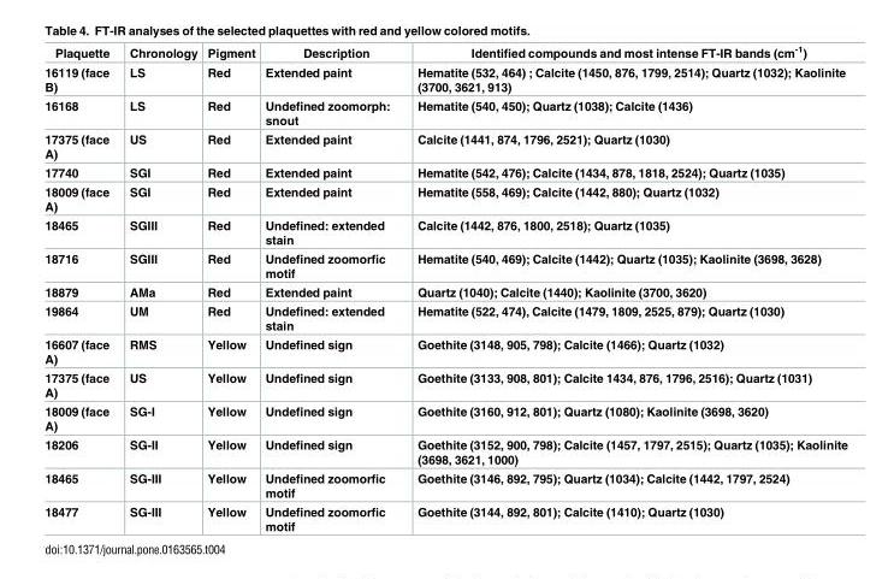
<table><thead><tr><td>Plaquette</td><td>Chronology</td><td>Pigment</td><td>Description</td><td>Identified compounds and most intense FT-IR bands (cm<sup>-1</sup>)</td></tr></thead><tbody><tr><td>16119 (face B)</td><td>LS</td><td>Red</td><td>Extended paint</td><td>Hematite (532, 464) ; Calcite (1450, 876, 1799, 2514); Quartz (1032); Kaolinite (3700, 3621, 913)</td></tr><tr><td>16168</td><td>LS</td><td>Red</td><td>Undefined zoomorph: snout</td><td>Hematite (540, 450); Quartz (1038); Calcite (1436)</td></tr><tr><td>17375 (face A)</td><td>US</td><td>Red</td><td>Extended paint</td><td>Calcite (1441, 874, 1796, 2521); Quartz (1030)</td></tr><tr><td>17740</td><td>SGI</td><td>Red</td><td>Extended paint</td><td>Hematite (542, 476); Calcite (1434, 878, 1818, 2524); Quartz (1035)</td></tr><tr><td>18009 (face A)</td><td>SGI</td><td>Red</td><td>Extended paint</td><td>Hematite (558, 469); Calcite (1442, 880); Quartz (1032)</td></tr><tr><td>18465</td><td>SGIII</td><td>Red</td><td>Undefined: extended stain</td><td>Calcite (1442, 876, 1800, 2518); Quartz (1035)</td></tr><tr><td>18716</td><td>SGIII</td><td>Red</td><td>Undefined zoomorfic motif</td><td>Hematite (540, 469); Calcite (1442); Quartz (1035); Kaolinite (3698, 3628)</td></tr><tr><td>18879</td><td>AMa</td><td>Red</td><td>Extended paint</td><td>Quartz (1040); Calcite (1440); Kaolinite (3700, 3620)</td></tr><tr><td>19864</td><td>UM</td><td>Red</td><td>Undefined: extended stain</td><td>Hematite (522, 474), Calcite (1479, 1809, 2525, 879); Quartz (1030)</td></tr><tr><td>16607 (face A)</td><td>RMS</td><td>Yellow</td><td>Undefined sign</td><td>Goethite (3148, 905, 798); Calcite (1466); Quartz (1032)</td></tr><tr><td>17375 (face A)</td><td>US</td><td>Yellow</td><td>Undefined sign</td><td>Goethite (3133, 908, 801); Calcite 1434, 876, 1796, 2516); Quartz (1031)</td></tr><tr><td>18009 (face A)</td><td>SG-I</td><td>Yellow</td><td>Undefined sign</td><td>Goethite (3160, 912, 801); Quartz (1080); Kaolinite (3698, 3620)</td></tr><tr><td>18206</td><td>SG-II</td><td>Yellow</td><td>Undefined sign</td><td>Goethite (3152, 900, 798); Calcite (1457, 1797, 2515); Quartz (1035); Kaolinite (3698, 3621, 1000)</td></tr><tr><td>18465</td><td>SG-III</td><td>Yellow</td><td>Undefined zoomorfic motif</td><td>Goethite (3146, 892, 795); Quartz (1034); Calcite (1442, 1797, 2524)</td></tr><tr><td>18477</td><td>SG-III</td><td>Yellow</td><td>Undefined zoomorfic motif</td><td>Goethite (3144, 892, 801); Calcite (1410); Quartz (1030)</td></tr></tbody></table>